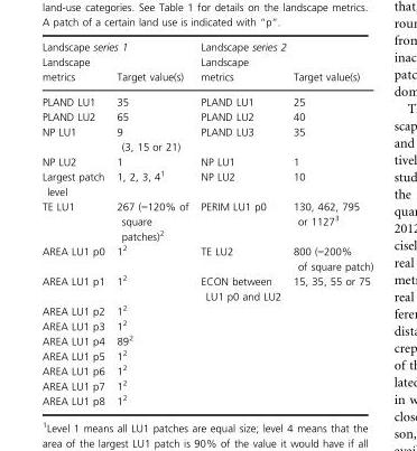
<table><thead><tr><td colspan="2">Landscape series 1</td><td colspan="2">Landscape series 2</td></tr><tr><td>Landscape metrics</td><td>Target value(s)</td><td>Landscape metrics</td><td>Target value(s)</td></tr></thead><tbody><tr><td>PLAND LU1</td><td>35</td><td>PLAND LU1</td><td>25</td></tr><tr><td>PLAND LU2</td><td>65</td><td>PLAND LU2</td><td>40</td></tr><tr><td>NP LU1</td><td>9 (3, 15 or 21)</td><td>PLAND LU3</td><td>35</td></tr><tr><td>NP LU2</td><td>1</td><td>NP LU1</td><td>1</td></tr><tr><td>Largest patch level</td><td>1, 2, 3, 41</td><td>NP LU2</td><td>10</td></tr><tr><td>TE LU1</td><td>267 (=120% of square patches)2</td><td>PERIM LU1 p0</td><td>130, 462, 795 or 11273</td></tr><tr><td>AREA LU1 p0</td><td>12</td><td>TE LU2</td><td>800 (=200% of square patch)</td></tr><tr><td>AREA LU1 p1</td><td>12</td><td>ECON between LU1 p0 and LU2</td><td>15, 35, 55 or 75</td></tr><tr><td>AREA LU1 p2</td><td>12</td><td></td><td></td></tr><tr><td>AREA LU1 p3</td><td>12</td><td></td><td></td></tr><tr><td>AREA LU1 p4</td><td>892</td><td></td><td></td></tr><tr><td>AREA LU1 p5</td><td>12</td><td></td><td></td></tr><tr><td>AREA LU1 p6</td><td>12</td><td></td><td></td></tr><tr><td>AREA LU1 p7</td><td>12</td><td></td><td></td></tr><tr><td>AREA LU1 p8</td><td>12</td><td></td><td></td></tr></tbody></table>